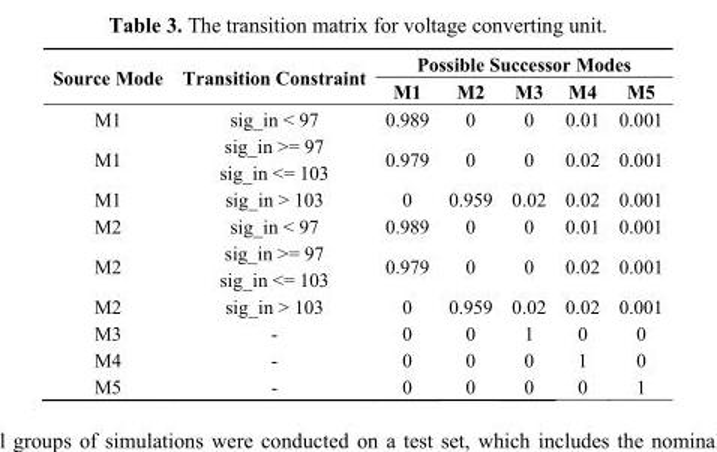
<table><thead><tr><td rowspan="2">Source Mode</td><td rowspan="2">Transition Constraint</td><td colspan="5">Possible Successor Modes</td></tr><tr><td>M1</td><td>M2</td><td>M3</td><td>M4</td><td>M5</td></tr></thead><tbody><tr><td>M1</td><td>sig_in &lt; 97</td><td>0.989</td><td>0</td><td>0</td><td>0.01</td><td>0.001</td></tr><tr><td>M1</td><td>sig_in &gt;= 97 sig_in &lt;= 103</td><td>0.979</td><td>0</td><td>0</td><td>0.02</td><td>0.001</td></tr><tr><td>M1</td><td>sig_in &gt; 103</td><td>0</td><td>0.959</td><td>0.02</td><td>0.02</td><td>0.001</td></tr><tr><td>M2</td><td>sig_in &lt; 97</td><td>0.989</td><td>0</td><td>0</td><td>0.01</td><td>0.001</td></tr><tr><td>M2</td><td>sig_in &gt;= 97 sig_in &lt;= 103</td><td>0.979</td><td>0</td><td>0</td><td>0.02</td><td>0.001</td></tr><tr><td>M2</td><td>sig_in &gt; 103</td><td>0</td><td>0.959</td><td>0.02</td><td>0.02</td><td>0.001</td></tr><tr><td>M3</td><td>-</td><td>0</td><td>0</td><td>1</td><td>0</td><td>0</td></tr><tr><td>M4</td><td>-</td><td>0</td><td>0</td><td>0</td><td>1</td><td>0</td></tr><tr><td>M5</td><td>-</td><td>0</td><td>0</td><td>0</td><td>0</td><td>1</td></tr></tbody></table>